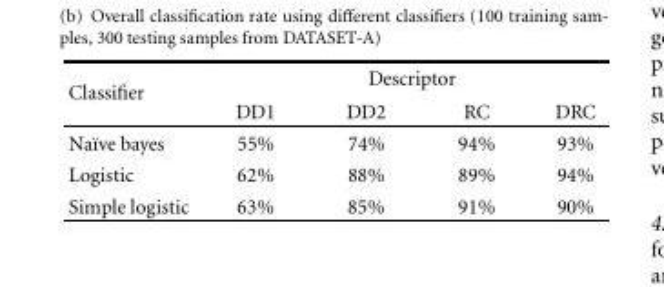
<table><tbody><tr><td rowspan="2">Classifier</td><td colspan="4">Descriptor</td></tr><tr><td>DD1</td><td>DD2</td><td>RC</td><td>DRC</td></tr><tr><td>Na¨ıve bayes</td><td>55%</td><td>74%</td><td>94%</td><td>93%</td></tr><tr><td>Logistic</td><td>62%</td><td>88%</td><td>89%</td><td>94%</td></tr><tr><td>Simple logistic</td><td>63%</td><td>85%</td><td>91%</td><td>90%</td></tr></tbody></table>